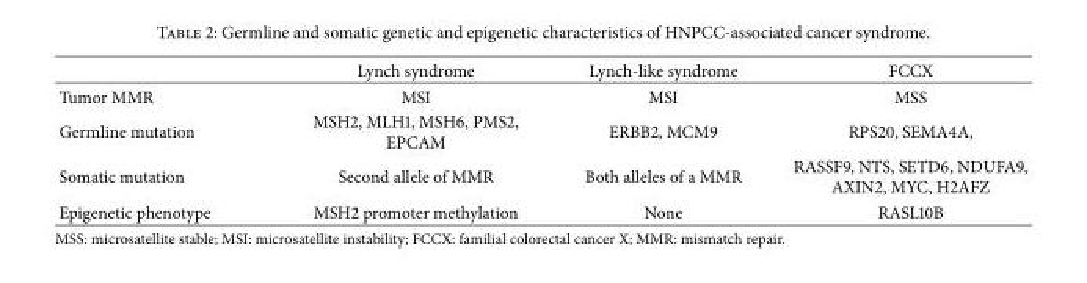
<table><thead><tr><td></td><td>Lynch syndrome</td><td>Lynch-like syndrome</td><td>FCCX</td></tr></thead><tbody><tr><td>Tumor MMR</td><td>MSI</td><td>MSI</td><td>MSS</td></tr><tr><td>Germline mutation</td><td>MSH2, MLH1, MSH6, PMS2, EPCAM</td><td>ERBB2, MCM9</td><td>RPS20, SEMA4A,</td></tr><tr><td>Somatic mutation</td><td>Second allele of MMR</td><td>Both alleles of a MMR</td><td>RASSF9, NTS, SETD6, NDUFA9, AXIN2, MYC, H2AFZ</td></tr><tr><td>Epigenetic phenotype</td><td>MSH2 promoter methylation</td><td>None</td><td>RASL10B</td></tr></tbody></table>